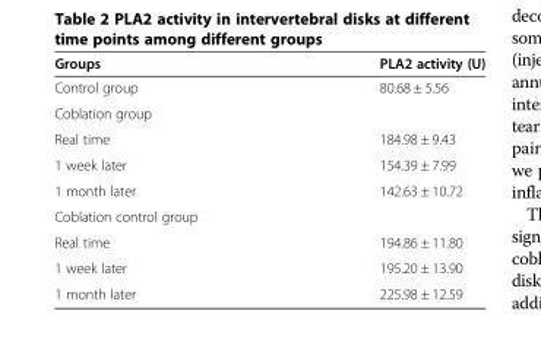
<table><thead><tr><td>Groups</td><td>PLA2 activity (U)</td></tr></thead><tbody><tr><td>Control group</td><td>80.68 ± 5.56</td></tr><tr><td colspan="2">Coblation group</td></tr><tr><td>Real time</td><td>184.98 ± 9.43</td></tr><tr><td>1 week later</td><td>154.39 ± 7.99</td></tr><tr><td>1 month later</td><td>142.63 ± 10.72</td></tr><tr><td colspan="2">Coblation control group</td></tr><tr><td>Real time</td><td>194.86 ± 11.80</td></tr><tr><td>1 week later</td><td>195.20 ± 13.90</td></tr><tr><td>1 month later</td><td>225.98 ± 12.59</td></tr></tbody></table>